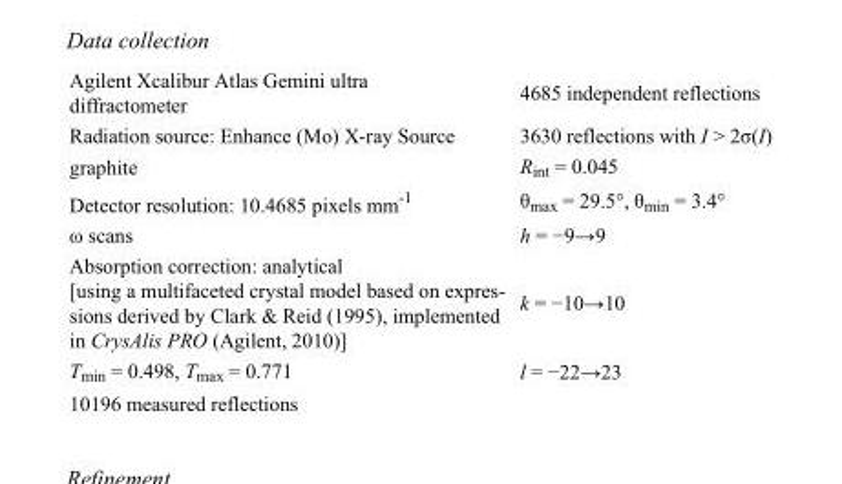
<table><tbody><tr><td>Agilent Xcalibur Atlas Gemini ultra diffractometer</td><td>4685 independent reflections</td></tr><tr><td>Radiation source: Enhance (Mo) X-ray Source</td><td>3630 reflections with I &gt; 2σ(I)</td></tr><tr><td>graphite</td><td>R<sub>int</sub> = 0.045</td></tr><tr><td>Detector resolution: 10.4685 pixels mm<sup>-1</sup></td><td>θ<sub>max</sub> = 29.5°, θ<sub>min</sub> = 3.4°</td></tr><tr><td>ω scans</td><td>h = −9→9</td></tr><tr><td>Absorption correction: analytical [using a multifaceted crystal model based on expres- sions derived by Clark &amp; Reid (1995), implemented in CrysAlis PRO (Agilent, 2010)]</td><td>k = −10→10</td></tr><tr><td>T<sub>min</sub> = 0.498, T<sub>max</sub> = 0.771</td><td>l = −22→23</td></tr><tr><td>10196 measured reflections</td><td></td></tr></tbody></table>